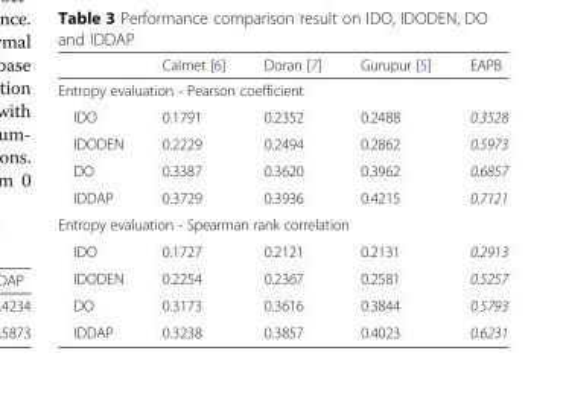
<table><thead><tr><td></td><td>Calmet [6]</td><td>Doran [7]</td><td>Gurupur [5]</td><td>EAPB</td></tr></thead><tbody><tr><td colspan="5">Entropy evaluation - Pearson coefficient</td></tr><tr><td>IDO</td><td>0.1791</td><td>0.2352</td><td>0.2488</td><td>0.3528</td></tr><tr><td>IDODEN</td><td>0.2229</td><td>0.2494</td><td>0.2862</td><td>0.5973</td></tr><tr><td>DO</td><td>0.3387</td><td>0.3620</td><td>0.3962</td><td>0.6857</td></tr><tr><td>IDDAP</td><td>0.3729</td><td>0.3936</td><td>0.4215</td><td>0.7121</td></tr><tr><td colspan="5">Entropy evaluation - Spearman rank correlation</td></tr><tr><td>IDO</td><td>0.1727</td><td>0.2121</td><td>0.2131</td><td>0.2913</td></tr><tr><td>IDODEN</td><td>0.2254</td><td>0.2367</td><td>0.2581</td><td>0.5257</td></tr><tr><td>DO</td><td>0.3173</td><td>0.3616</td><td>0.3844</td><td>0.5793</td></tr><tr><td>IDDAP</td><td>0.3238</td><td>0.3857</td><td>0.4023</td><td>0.6231</td></tr></tbody></table>